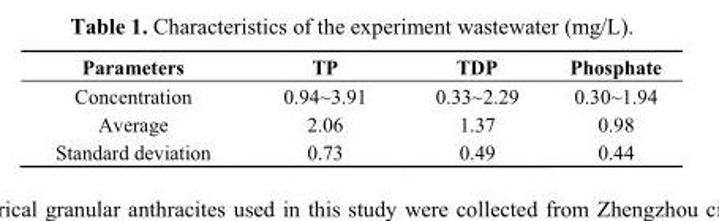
<table><thead><tr><td>Parameters</td><td>TP</td><td>TDP</td><td>Phosphate</td></tr></thead><tbody><tr><td>Concentration</td><td>0.94~3.91</td><td>0.33~2.29</td><td>0.30~1.94</td></tr><tr><td>Average</td><td>2.06</td><td>1.37</td><td>0.98</td></tr><tr><td>Standard deviation</td><td>0.73</td><td>0.49</td><td>0.44</td></tr></tbody></table>